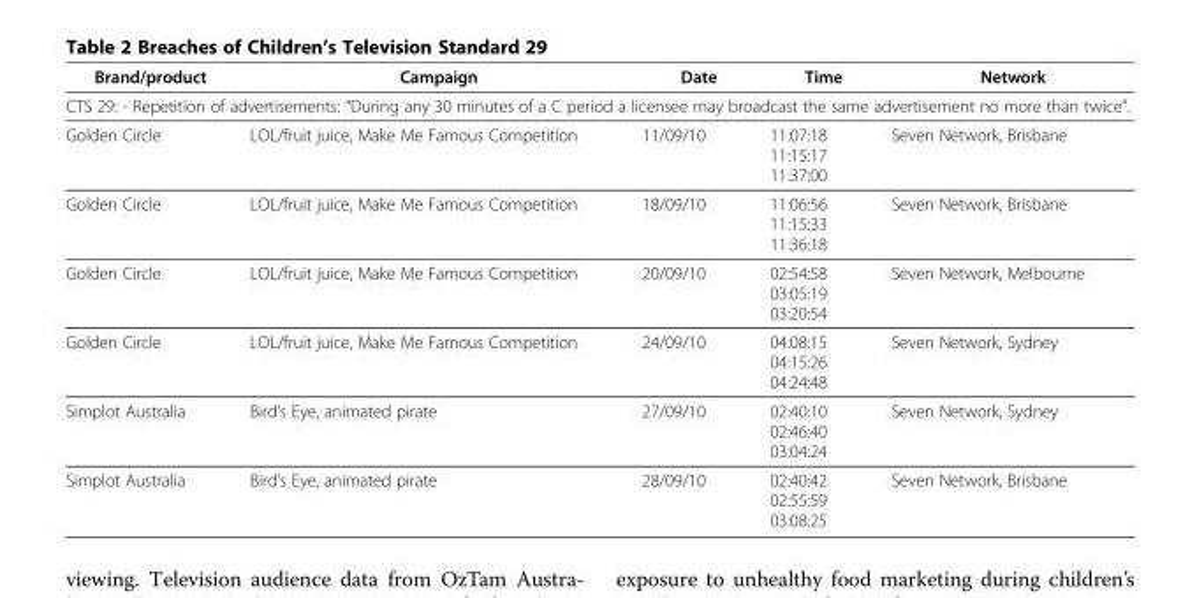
<table><thead><tr><td>Brand/product</td><td>Campaign</td><td>Date</td><td>Time</td><td>Network</td></tr></thead><tbody><tr><td colspan="5">CTS 29: - Repetition of advertisements: “During any 30 minutes of a C period a licensee may broadcast the same advertisement no more than twice”.</td></tr><tr><td rowspan="3">Golden Circle</td><td rowspan="2">LOL/fruit juice, Make Me Famous Competition</td><td rowspan="2">11/09/10</td><td>11:07:18</td><td rowspan="2">Seven Network, Brisbane</td></tr><tr><td>11:15:17</td></tr><tr><td></td><td></td><td>11:37:00</td><td></td></tr><tr><td rowspan="3">Golden Circle</td><td rowspan="2">LOL/fruit juice, Make Me Famous Competition</td><td rowspan="2">18/09/10</td><td>11:06:56</td><td rowspan="2">Seven Network, Brisbane</td></tr><tr><td>11:15:33</td></tr><tr><td></td><td></td><td>11:36:18</td><td></td></tr><tr><td rowspan="3">Golden Circle</td><td rowspan="2">LOL/fruit juice, Make Me Famous Competition</td><td rowspan="2">20/09/10</td><td>02:54:58</td><td rowspan="2">Seven Network, Melbourne</td></tr><tr><td>03:05:19</td></tr><tr><td></td><td></td><td>03:20:54</td><td></td></tr><tr><td rowspan="3">Golden Circle</td><td>LOL/fruit juice, Make Me Famous Competition</td><td>24/09/10</td><td>04:08:15</td><td>Seven Network, Sydney</td></tr><tr><td></td><td></td><td>04:15:26</td><td></td></tr><tr><td></td><td></td><td>04:24:48</td><td></td></tr><tr><td rowspan="3">Simplot Australia</td><td>Bird’s Eye, animated pirate</td><td>27/09/10</td><td>02:40:10</td><td>Seven Network, Sydney</td></tr><tr><td></td><td></td><td>02:46:40</td><td></td></tr><tr><td></td><td></td><td>03:04:24</td><td></td></tr><tr><td rowspan="3">Simplot Australia</td><td>Bird’s Eye, animated pirate</td><td>28/09/10</td><td>02:40:42</td><td>Seven Network, Brisbane</td></tr><tr><td></td><td></td><td>02:55:59</td><td></td></tr><tr><td></td><td></td><td>03:08:25</td><td></td></tr></tbody></table>